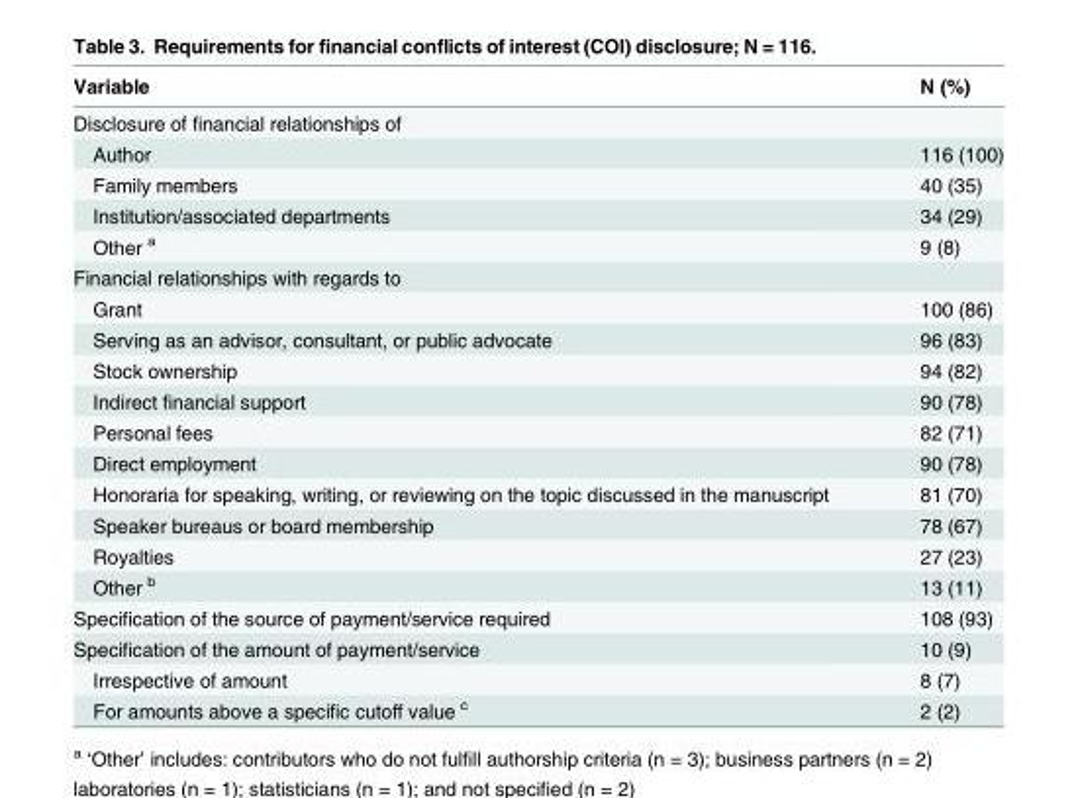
<table><thead><tr><td>Variable</td><td>N (%)</td></tr></thead><tbody><tr><td colspan="2">Disclosure of financial relationships of</td></tr><tr><td>Author</td><td>116 (100)</td></tr><tr><td>Family members</td><td>40 (35)</td></tr><tr><td>Institution/associated departments</td><td>34 (29)</td></tr><tr><td>Other <sup>a</sup></td><td>9 (8)</td></tr><tr><td colspan="2">Financial relationships with regards to</td></tr><tr><td>Grant</td><td>100 (86)</td></tr><tr><td>Serving as an advisor, consultant, or public advocate</td><td>96 (83)</td></tr><tr><td>Stock ownership</td><td>94 (82)</td></tr><tr><td>Indirect financial support</td><td>90 (78)</td></tr><tr><td>Personal fees</td><td>82 (71)</td></tr><tr><td>Direct employment</td><td>90 (78)</td></tr><tr><td>Honoraria for speaking, writing, or reviewing on the topic discussed in the manuscript</td><td>81 (70)</td></tr><tr><td>Speaker bureaus or board membership</td><td>78 (67)</td></tr><tr><td>Royalties</td><td>27 (23)</td></tr><tr><td>Other <sup>b</sup></td><td>13 (11)</td></tr><tr><td>Specification of the source of payment/service required</td><td>108 (93)</td></tr><tr><td>Specification of the amount of payment/service</td><td>10 (9)</td></tr><tr><td>Irrespective of amount</td><td>8 (7)</td></tr><tr><td>For amounts above a specific cutoff value <sup>c</sup></td><td>2 (2)</td></tr></tbody></table>